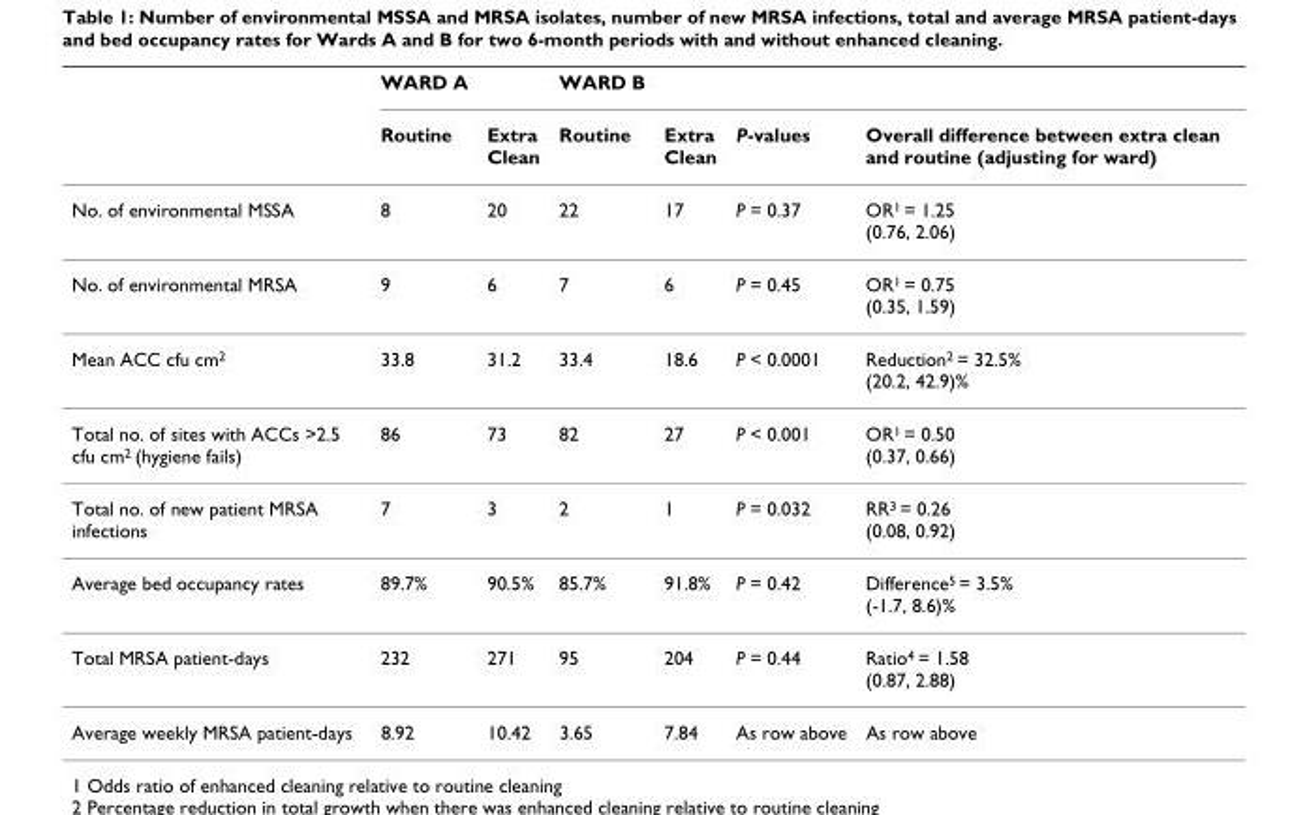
<table><thead><tr><td rowspan="2"></td><td rowspan="2">WARD A Routine</td><td rowspan="2">Extra Clean</td><td rowspan="2">WARD B Routine</td><td rowspan="2">Extra Clean</td><td rowspan="2">P-values</td><td rowspan="2">Overall difference between extra clean and routine (adjusting for ward)</td></tr><tr></tr></thead><tbody><tr><td>No. of environmental MSSA</td><td>8</td><td>20</td><td>22</td><td>17</td><td>P = 0.37</td><td>OR<sup>1</sup> = 1.25 (0.76, 2.06)</td></tr><tr><td>No. of environmental MRSA</td><td>9</td><td>6</td><td>7</td><td>6</td><td>P = 0.45</td><td>OR<sup>1</sup> = 0.75 (0.35, 1.59)</td></tr><tr><td>Mean ACC cfu cm<sup>2</sup></td><td>33.8</td><td>31.2</td><td>33.4</td><td>18.6</td><td>P &lt; 0.0001</td><td>Reduction<sup>2</sup> = 32.5% (20.2, 42.9)%</td></tr><tr><td>Total no. of sites with ACCs &gt;2.5 cfu cm<sup>2</sup> (hygiene fails)</td><td>86</td><td>73</td><td>82</td><td>27</td><td>P &lt; 0.001</td><td>OR<sup>1</sup> = 0.50 (0.37, 0.66)</td></tr><tr><td>Total no. of new patient MRSA infections</td><td>7</td><td>3</td><td>2</td><td>1</td><td>P = 0.032</td><td>RR<sup>3</sup> = 0.26 (0.08, 0.92)</td></tr><tr><td>Average bed occupancy rates</td><td>89.7%</td><td>90.5%</td><td>85.7%</td><td>91.8%</td><td>P = 0.42</td><td>Difference<sup>5</sup> = 3.5% (-1.7, 8.6)%</td></tr><tr><td>Total MRSA patient-days</td><td>232</td><td>271</td><td>95</td><td>204</td><td>P = 0.44</td><td>Ratio<sup>4</sup> = 1.58 (0.87, 2.88)</td></tr><tr><td>Average weekly MRSA patient-days</td><td>8.92</td><td>10.42</td><td>3.65</td><td>7.84</td><td>As row above</td><td>As row above</td></tr></tbody></table>